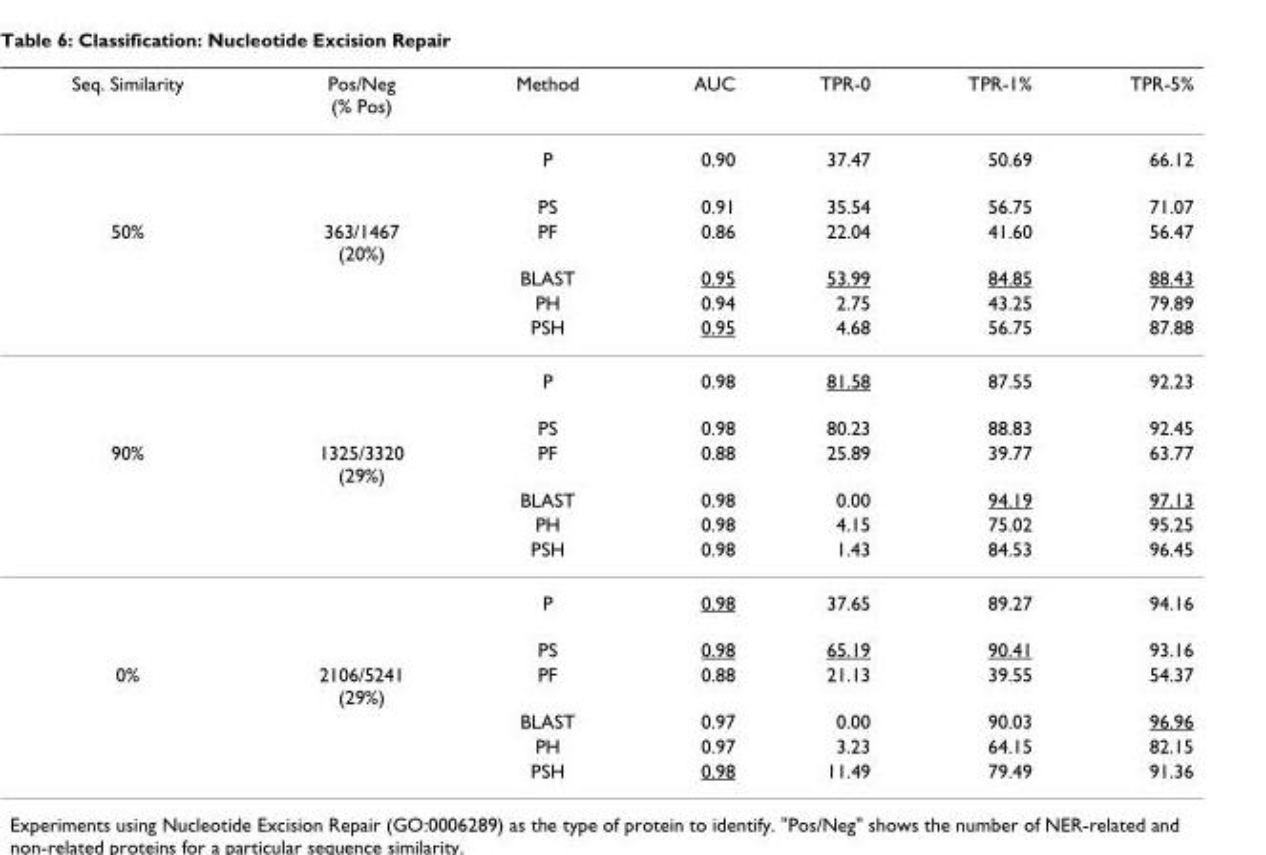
<table><thead><tr><td>Seq. Similarity</td><td>Pos/Neg (% Pos)</td><td>Method</td><td>AUC</td><td>TPR-0</td><td>TPR-1%</td><td>TPR-5%</td></tr></thead><tbody><tr><td></td><td></td><td>P</td><td>0.90</td><td>37.47</td><td>50.69</td><td>66.12</td></tr><tr><td></td><td></td><td>PS</td><td>0.91</td><td>35.54</td><td>56.75</td><td>71.07</td></tr><tr><td rowspan="6">50%</td><td>363/1467 (20%)</td><td>PF</td><td>0.86</td><td>22.04</td><td>41.60</td><td>56.47</td></tr><tr><td></td><td>BLAST</td><td>0.95</td><td>53.99</td><td>84.85</td><td>88.43</td></tr><tr><td></td><td>PH</td><td>0.94</td><td>2.75</td><td>43.25</td><td>79.89</td></tr><tr><td></td><td>PSH</td><td>0.95</td><td>4.68</td><td>56.75</td><td>87.88</td></tr><tr><td></td><td>P</td><td>0.98</td><td>81.58</td><td>87.55</td><td>92.23</td></tr><tr><td></td><td>PS</td><td>0.98</td><td>80.23</td><td>88.83</td><td>92.45</td></tr><tr><td rowspan="6">90%</td><td>1325/3320 (29%)</td><td>PF</td><td>0.88</td><td>25.89</td><td>39.77</td><td>63.77</td></tr><tr><td></td><td>BLAST</td><td>0.98</td><td>0.00</td><td>94.19</td><td>97.13</td></tr><tr><td></td><td>PH</td><td>0.98</td><td>4.15</td><td>75.02</td><td>95.25</td></tr><tr><td></td><td>PSH</td><td>0.98</td><td>1.43</td><td>84.53</td><td>96.45</td></tr><tr><td></td><td>P</td><td>0.98</td><td>37.65</td><td>89.27</td><td>94.16</td></tr><tr><td></td><td>PS</td><td>0.98</td><td>65.19</td><td>90.41</td><td>93.16</td></tr><tr><td rowspan="4">0%</td><td>2106/5241 (29%)</td><td>PF</td><td>0.88</td><td>21.13</td><td>39.55</td><td>54.37</td></tr><tr><td></td><td>BLAST</td><td>0.97</td><td>0.00</td><td>90.03</td><td>96.96</td></tr><tr><td></td><td>PH</td><td>0.97</td><td>3.23</td><td>64.15</td><td>82.15</td></tr><tr><td></td><td>PSH</td><td>0.98</td><td>11.49</td><td>79.49</td><td>91.36</td></tr></tbody></table>